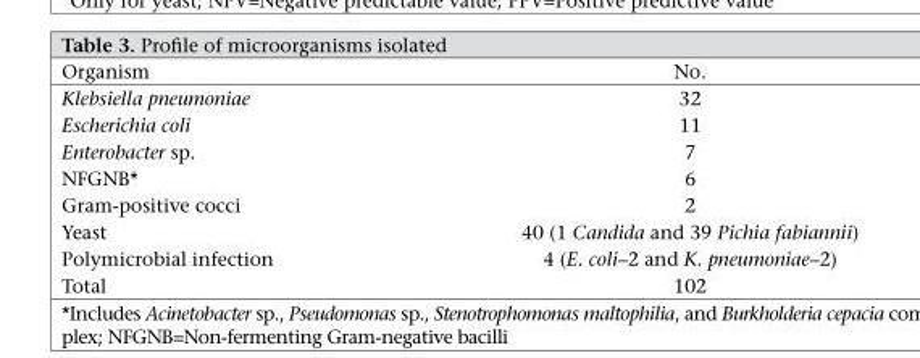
<table><thead><tr><td>Organism</td><td>No.</td></tr></thead><tbody><tr><td>Klebsiella pneumoniae</td><td>32</td></tr><tr><td>Escherichia coli</td><td>11</td></tr><tr><td>Enterobacter sp.</td><td>7</td></tr><tr><td>NFGNB*</td><td>6</td></tr><tr><td>Gram-positive cocci</td><td>2</td></tr><tr><td>Yeast</td><td>40 (1 Candida and 39 Pichia fabiannii)</td></tr><tr><td>Polymicrobial infection</td><td>4 (E. coli–2 and K. pneumoniae–2)</td></tr><tr><td>Total</td><td>102</td></tr></tbody></table>